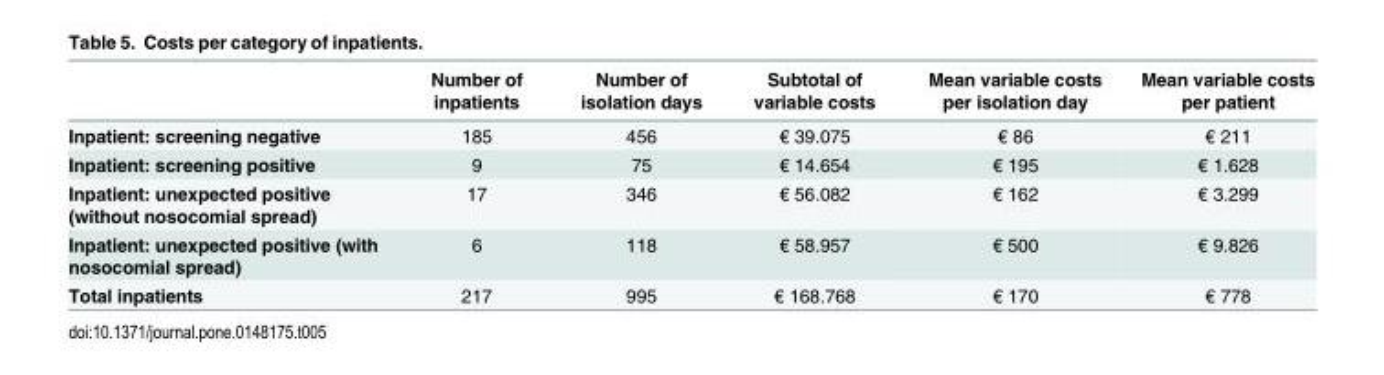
<table><thead><tr><td></td><td>Number of inpatients</td><td>Number of isolation days</td><td>Subtotal of variable costs</td><td>Mean variable costs per isolation day</td><td>Mean variable costs per patient</td></tr></thead><tbody><tr><td>Inpatient: screening negative</td><td>185</td><td>456</td><td>€ 39.075</td><td>€ 86</td><td>€ 211</td></tr><tr><td>Inpatient: screening positive</td><td>9</td><td>75</td><td>€ 14.654</td><td>€ 195</td><td>€ 1.628</td></tr><tr><td>Inpatient: unexpected positive (without nosocomial spread)</td><td>17</td><td>346</td><td>€ 56.082</td><td>€ 162</td><td>€ 3.299</td></tr><tr><td>Inpatient: unexpected positive (with nosocomial spread)</td><td>6</td><td>118</td><td>€ 58.957</td><td>€ 500</td><td>€ 9.826</td></tr><tr><td>Total inpatients</td><td>217</td><td>995</td><td>€ 168.768</td><td>€ 170</td><td>€ 778</td></tr></tbody></table>